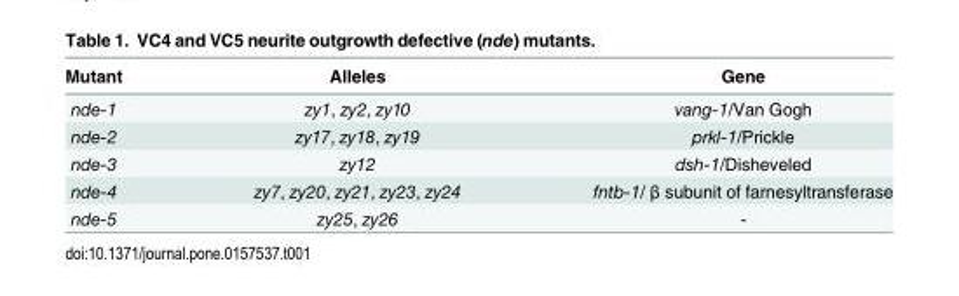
<table><thead><tr><td>Mutant</td><td>Alleles</td><td>Gene</td></tr></thead><tbody><tr><td>nde-1</td><td>zy1, zy2, zy10</td><td>vang-1/Van Gogh</td></tr><tr><td>nde-2</td><td>zy17, zy18, zy19</td><td>prkl-1/Prickle</td></tr><tr><td>nde-3</td><td>zy12</td><td>dsh-1/Disheveled</td></tr><tr><td>nde-4</td><td>zy7, zy20, zy21, zy23, zy24</td><td>fntb-1/ β subunit of farnesyltransferase</td></tr><tr><td>nde-5</td><td>zy25, zy26</td><td>-</td></tr></tbody></table>